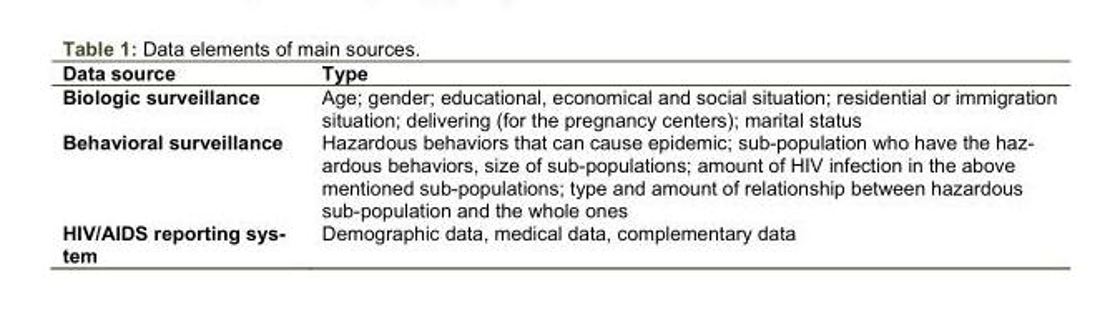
<table><thead><tr><td>Data source</td><td>Type</td></tr></thead><tbody><tr><td>Biologic surveillance</td><td>Age; gender; educational, economical and social situation; residential or immigration situation; delivering (for the pregnancy centers); marital status</td></tr><tr><td>Behavioral surveillance</td><td>Hazardous behaviors that can cause epidemic; sub-population who have the haz- ardous behaviors, size of sub-populations; amount of HIV infection in the above mentioned sub-populations; type and amount of relationship between hazardous sub-population and the whole ones</td></tr><tr><td>HIV/AIDS reporting sys- tem</td><td>Demographic data, medical data, complementary data</td></tr></tbody></table>